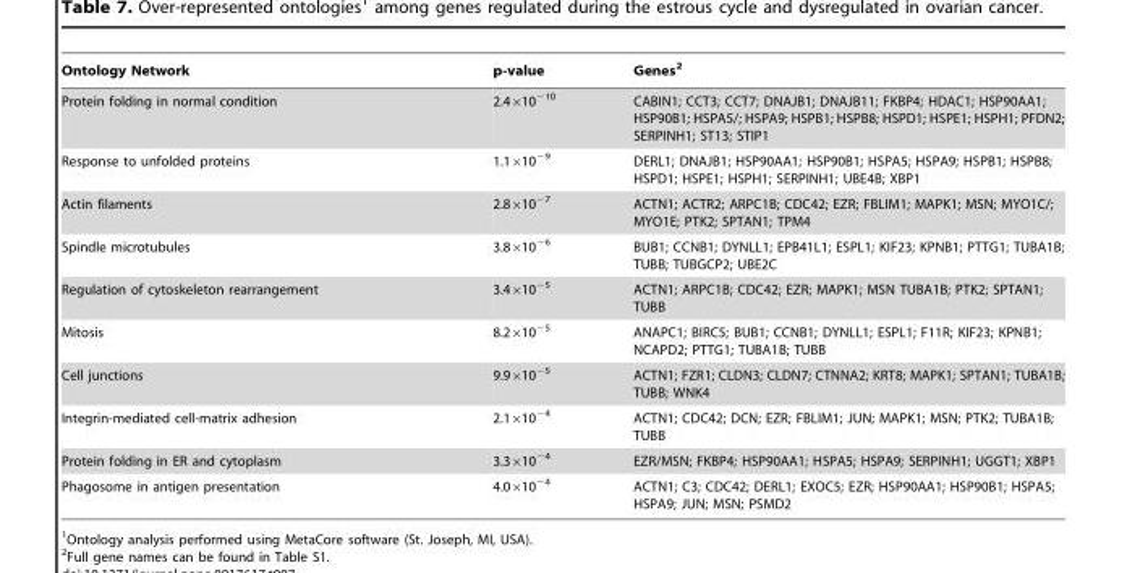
<table><thead><tr><td>Ontology Network</td><td>p-value</td><td>Genes<sup>2</sup></td></tr></thead><tbody><tr><td>Protein folding in normal condition</td><td>2.4×10<sup>−10</sup></td><td>CABIN1; CCT3; CCT7; DNAJB1; DNAJB11; FKBP4; HDAC1; HSP90AA1; HSP90B1; HSPA5/; HSPA9; HSPB1; HSPB8; HSPD1; HSPE1; HSPH1; PFDN2; SERPINH1; ST13; STIP1</td></tr><tr><td>Response to unfolded proteins</td><td>1.1×10<sup>−9</sup></td><td>DERL1; DNAJB1; HSP90AA1; HSP90B1; HSPA5; HSPA9; HSPB1; HSPB8; HSPD1; HSPE1; HSPH1; SERPINH1; UBE4B; XBP1</td></tr><tr><td>Actin filaments</td><td>2.8×10<sup>−7</sup></td><td>ACTN1; ACTR2; ARPC1B; CDC42; EZR; FBLIM1; MAPK1; MSN; MYO1C/; MYO1E; PTK2; SPTAN1; TPM4</td></tr><tr><td>Spindle microtubules</td><td>3.8×10<sup>−6</sup></td><td>BUB1; CCNB1; DYNLL1; EPB41L1; ESPL1; KIF23; KPNB1; PTTG1; TUBA1B; TUBB; TUBGCP2; UBE2C</td></tr><tr><td>Regulation of cytoskeleton rearrangement</td><td>3.4×10<sup>−5</sup></td><td>ACTN1; ARPC1B; CDC42; EZR; MAPK1; MSN TUBA1B; PTK2; SPTAN1; TUBB</td></tr><tr><td>Mitosis</td><td>8.2×10<sup>−5</sup></td><td>ANAPC1; BIRC5; BUB1; CCNB1; DYNLL1; ESPL1; F11R; KIF23; KPNB1; NCAPD2; PTTG1; TUBA1B; TUBB</td></tr><tr><td>Cell junctions</td><td>9.9×10<sup>−5</sup></td><td>ACTN1; FZR1; CLDN3; CLDN7; CTNNA2; KRT8; MAPK1; SPTAN1; TUBA1B; TUBB; WNK4</td></tr><tr><td>Integrin-mediated cell-matrix adhesion</td><td>2.1×10<sup>−4</sup></td><td>ACTN1; CDC42; DCN; EZR; FBLIM1; JUN; MAPK1; MSN; PTK2; TUBA1B; TUBB</td></tr><tr><td>Protein folding in ER and cytoplasm</td><td>3.3×10<sup>−4</sup></td><td>EZR/MSN; FKBP4; HSP90AA1; HSPA5; HSPA9; SERPINH1; UGGT1; XBP1</td></tr><tr><td>Phagosome in antigen presentation</td><td>4.0×10<sup>−4</sup></td><td>ACTN1; C3; CDC42; DERL1; EXOC5; EZR; HSP90AA1; HSP90B1; HSPA5; HSPA9; JUN; MSN; PSMD2</td></tr></tbody></table>